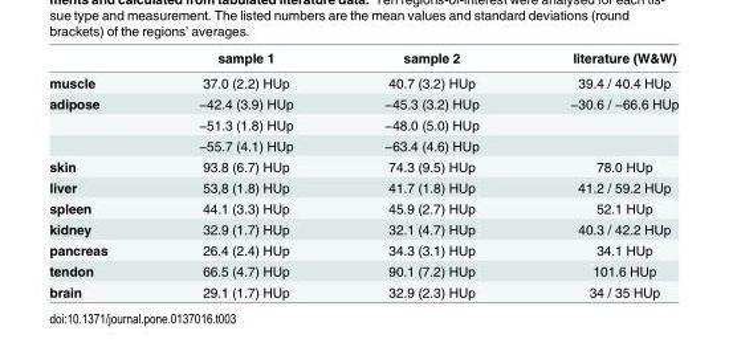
<table><thead><tr><td></td><td>sample 1</td><td>sample 2</td><td>literature (W&amp;W)</td></tr></thead><tbody><tr><td>muscle</td><td>37.0 (2.2) HUp</td><td>40.7 (3.2) HUp</td><td>39.4 / 40.4 HUp</td></tr><tr><td rowspan="3">adipose</td><td>−42.4 (3.9) HUp</td><td>−45.3 (3.2) HUp</td><td>−30.6 / −66.6 HUp</td></tr><tr><td>−51.3 (1.8) HUp</td><td>−48.0 (5.0) HUp</td><td></td></tr><tr><td>−55.7 (4.1) HUp</td><td>−63.4 (4.6) HUp</td><td></td></tr><tr><td>skin</td><td>93.8 (6.7) HUp</td><td>74.3 (9.5) HUp</td><td>78.0 HUp</td></tr><tr><td>liver</td><td>53,8 (1.8) HUp</td><td>41.7 (1.8) HUp</td><td>41.2 / 59.2 HUp</td></tr><tr><td>spleen</td><td>44.1 (3.3) HUp</td><td>45.9 (2.7) HUp</td><td>52.1 HUp</td></tr><tr><td>kidney</td><td>32.9 (1.7) HUp</td><td>32.1 (4.7) HUp</td><td>40.3 / 42.2 HUp</td></tr><tr><td>pancreas</td><td>26.4 (2.4) HUp</td><td>34.3 (3.1) HUp</td><td>34.1 HUp</td></tr><tr><td>tendon</td><td>66.5 (4.7) HUp</td><td>90.1 (7.2) HUp</td><td>101.6 HUp</td></tr><tr><td>brain</td><td>29.1 (1.7) HUp</td><td>32.9 (2.3) HUp</td><td>34 / 35 HUp</td></tr></tbody></table>